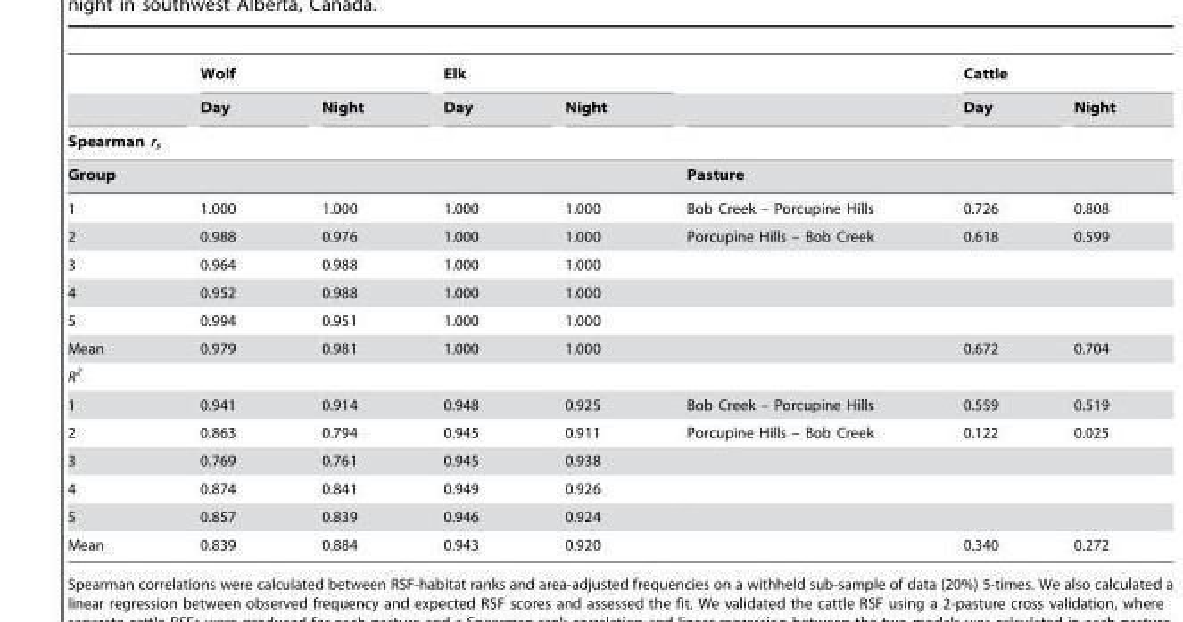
<table><thead><tr><td rowspan="2"></td><td colspan="2">Wolf</td><td colspan="2">Elk</td><td rowspan="2"></td><td colspan="2">Cattle</td></tr><tr><td>Day</td><td>Night</td><td>Day</td><td>Night</td><td>Day</td><td>Night</td></tr><tr><td colspan="8">Spearman r<sub>s</sub></td></tr><tr><td colspan="5">Group</td><td colspan="3">Pasture</td></tr></thead><tbody><tr><td>1</td><td>1.000</td><td>1.000</td><td>1.000</td><td>1.000</td><td>Bob Creek – Porcupine Hills</td><td>0.726</td><td>0.808</td></tr><tr><td>2</td><td>0.988</td><td>0.976</td><td>1.000</td><td>1.000</td><td>Porcupine Hills – Bob Creek</td><td>0.618</td><td>0.599</td></tr><tr><td>3</td><td>0.964</td><td>0.988</td><td>1.000</td><td>1.000</td><td></td><td></td><td></td></tr><tr><td>4</td><td>0.952</td><td>0.988</td><td>1.000</td><td>1.000</td><td></td><td></td><td></td></tr><tr><td>5</td><td>0.994</td><td>0.951</td><td>1.000</td><td>1.000</td><td></td><td></td><td></td></tr><tr><td>Mean</td><td>0.979</td><td>0.981</td><td>1.000</td><td>1.000</td><td></td><td>0.672</td><td>0.704</td></tr><tr><td colspan="8">R<sup>2</sup></td></tr><tr><td>1</td><td>0.941</td><td>0.914</td><td>0.948</td><td>0.925</td><td>Bob Creek – Porcupine Hills</td><td>0.559</td><td>0.519</td></tr><tr><td>2</td><td>0.863</td><td>0.794</td><td>0.945</td><td>0.911</td><td>Porcupine Hills – Bob Creek</td><td>0.122</td><td>0.025</td></tr><tr><td>3</td><td>0.769</td><td>0.761</td><td>0.945</td><td>0.938</td><td></td><td></td><td></td></tr><tr><td>4</td><td>0.874</td><td>0.841</td><td>0.949</td><td>0.926</td><td></td><td></td><td></td></tr><tr><td>5</td><td>0.857</td><td>0.839</td><td>0.946</td><td>0.924</td><td></td><td></td><td></td></tr><tr><td>Mean</td><td>0.839</td><td>0.884</td><td>0.943</td><td>0.920</td><td></td><td>0.340</td><td>0.272</td></tr></tbody></table>